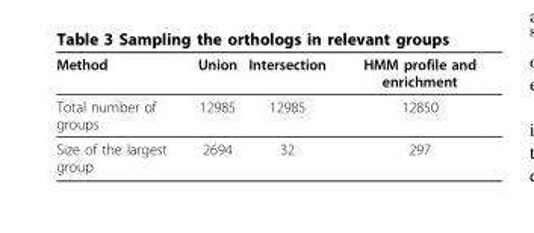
<table><thead><tr><td>Method</td><td>Union</td><td>Intersection</td><td>HMM profile and enrichment</td></tr></thead><tbody><tr><td>Total number of groups</td><td>12985</td><td>12985</td><td>12850</td></tr><tr><td>Size of the largest group</td><td>2694</td><td>32</td><td>297</td></tr></tbody></table>